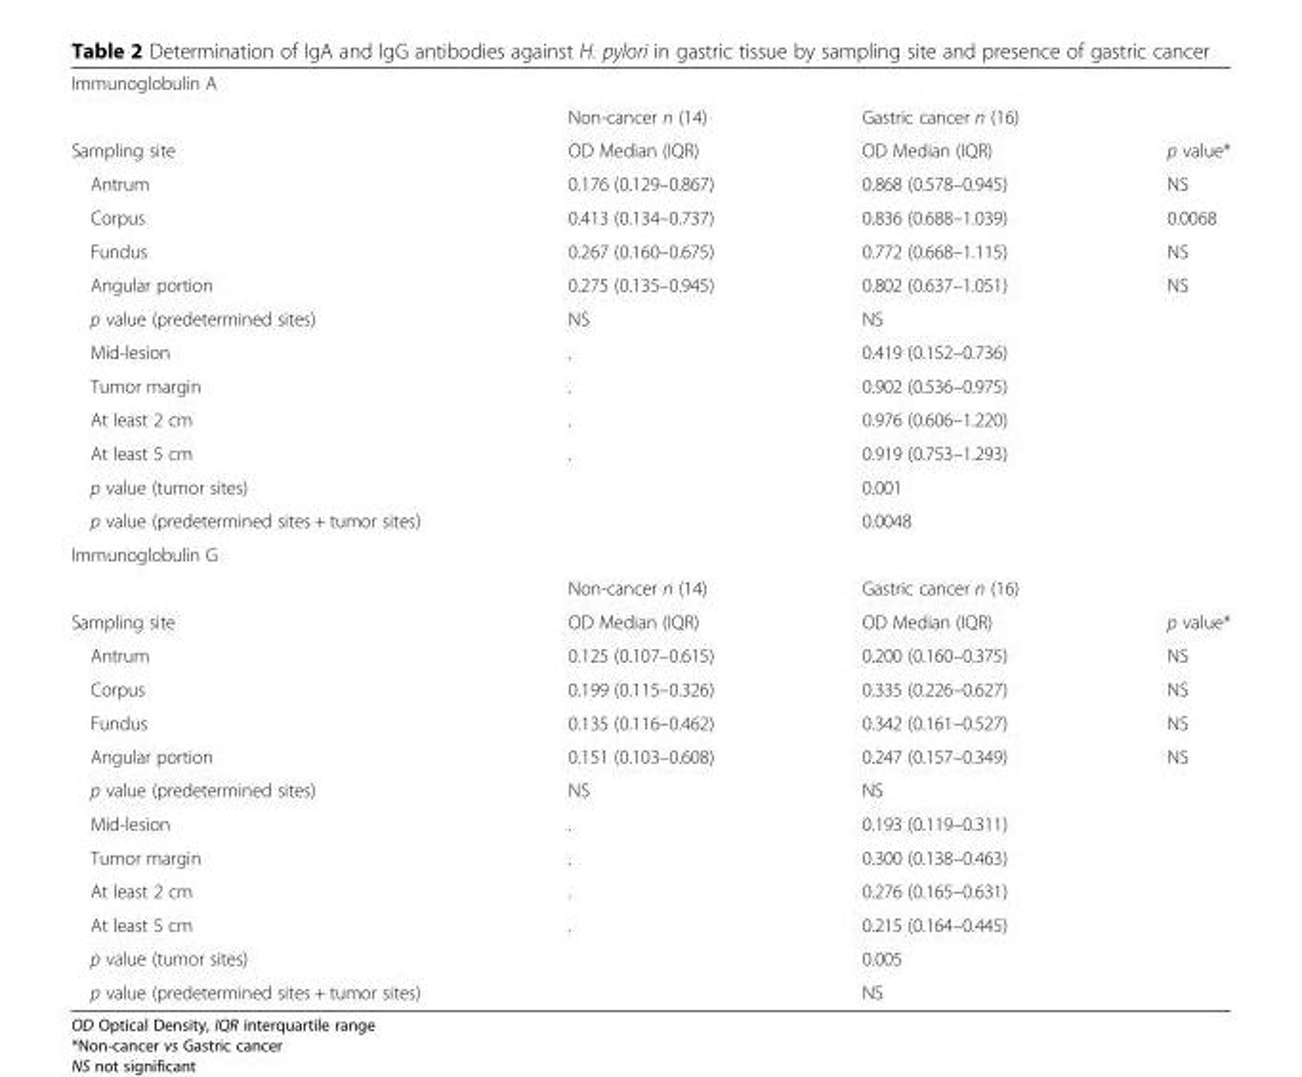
<table><tbody><tr><td colspan="4">Immunoglobulin A</td></tr><tr><td></td><td>Non-cancer n (14)</td><td>Gastric cancer n (16)</td><td></td></tr><tr><td>Sampling site</td><td>OD Median (IQR)</td><td>OD Median (IQR)</td><td>p value*</td></tr><tr><td>Antrum</td><td>0.176 (0.129–0.867)</td><td>0.868 (0.578–0.945)</td><td>NS</td></tr><tr><td>Corpus</td><td>0.413 (0.134–0.737)</td><td>0.836 (0.688–1.039)</td><td>0.0068</td></tr><tr><td>Fundus</td><td>0.267 (0.160–0.675)</td><td>0.772 (0.668–1.115)</td><td>NS</td></tr><tr><td>Angular portion</td><td>0.275 (0.135–0.945)</td><td>0.802 (0.637–1.051)</td><td>NS</td></tr><tr><td>p value (predetermined sites)</td><td>NS</td><td>NS</td><td></td></tr><tr><td>Mid-lesion</td><td>.</td><td>0.419 (0.152–0.736)</td><td></td></tr><tr><td>Tumor margin</td><td>.</td><td>0.902 (0.536–0.975)</td><td></td></tr><tr><td>At least 2 cm</td><td>.</td><td>0.976 (0.606–1.220)</td><td></td></tr><tr><td>At least 5 cm</td><td>.</td><td>0.919 (0.753–1.293)</td><td></td></tr><tr><td>p value (tumor sites)</td><td></td><td>0.001</td><td></td></tr><tr><td>p value (predetermined sites + tumor sites)</td><td></td><td>0.0048</td><td></td></tr><tr><td colspan="4">Immunoglobulin G</td></tr><tr><td></td><td>Non-cancer n (14)</td><td>Gastric cancer n (16)</td><td></td></tr><tr><td>Sampling site</td><td>OD Median (IQR)</td><td>OD Median (IQR)</td><td>p value*</td></tr><tr><td>Antrum</td><td>0.125 (0.107–0.615)</td><td>0.200 (0.160–0.375)</td><td>NS</td></tr><tr><td>Corpus</td><td>0.199 (0.115–0.326)</td><td>0.335 (0.226–0.627)</td><td>NS</td></tr><tr><td>Fundus</td><td>0.135 (0.116–0.462)</td><td>0.342 (0.161–0.527)</td><td>NS</td></tr><tr><td>Angular portion</td><td>0.151 (0.103–0.608)</td><td>0.247 (0.157–0.349)</td><td>NS</td></tr><tr><td>p value (predetermined sites)</td><td>NS</td><td>NS</td><td></td></tr><tr><td>Mid-lesion</td><td>.</td><td>0.193 (0.119–0.311)</td><td></td></tr><tr><td>Tumor margin</td><td>.</td><td>0.300 (0.138–0.463)</td><td></td></tr><tr><td>At least 2 cm</td><td>.</td><td>0.276 (0.165–0.631)</td><td></td></tr><tr><td>At least 5 cm</td><td>.</td><td>0.215 (0.164–0.445)</td><td></td></tr><tr><td>p value (tumor sites)</td><td></td><td>0.005</td><td></td></tr><tr><td>p value (predetermined sites + tumor sites)</td><td></td><td>NS</td><td></td></tr></tbody></table>